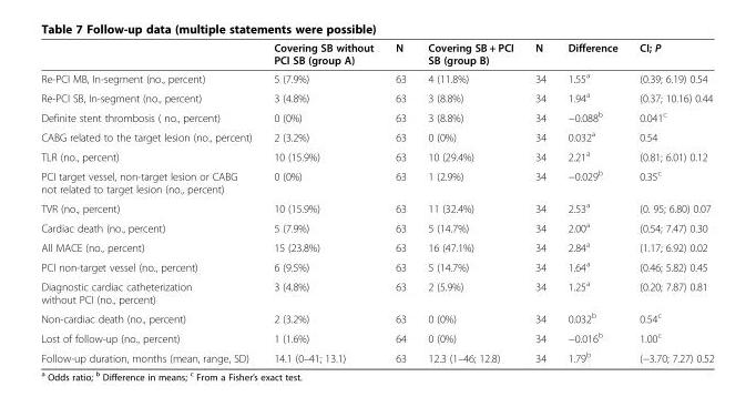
<table><thead><tr><td></td><td>Covering SB without PCI SB (group A)</td><td>N</td><td>Covering SB + PCI SB (group B)</td><td>N</td><td>Difference</td><td>CI; P</td></tr></thead><tbody><tr><td>Re-PCI MB, In-segment (no., percent)</td><td>5 (7.9%)</td><td>63</td><td>4 (11.8%)</td><td>34</td><td>1.55<sup>a</sup></td><td>(0.39; 6.19) 0.54</td></tr><tr><td>Re-PCI SB, In-segment (no., percent)</td><td>3 (4.8%)</td><td>63</td><td>3 (8.8%)</td><td>34</td><td>1.94<sup>a</sup></td><td>(0.37; 10.16) 0.44</td></tr><tr><td>Definite stent thrombosis ( no., percent)</td><td>0 (0%)</td><td>63</td><td>3 (8.8%)</td><td>34</td><td>−0.088<sup>b</sup></td><td>0.041<sup>c</sup></td></tr><tr><td>CABG related to the target lesion (no., percent)</td><td>2 (3.2%)</td><td>63</td><td>0 (0%)</td><td>34</td><td>0.032<sup>a</sup></td><td>0.54</td></tr><tr><td>TLR (no., percent)</td><td>10 (15.9%)</td><td>63</td><td>10 (29.4%)</td><td>34</td><td>2.21<sup>a</sup></td><td>(0.81; 6.01) 0.12</td></tr><tr><td>PCI target vessel, non-target lesion or CABG not related to target lesion (no., percent)</td><td>0 (0%)</td><td>63</td><td>1 (2.9%)</td><td>34</td><td>−0.029<sup>b</sup></td><td>0.35<sup>c</sup></td></tr><tr><td>TVR (no., percent)</td><td>10 (15.9%)</td><td>63</td><td>11 (32.4%)</td><td>34</td><td>2.53<sup>a</sup></td><td>(0. 95; 6.80) 0.07</td></tr><tr><td>Cardiac death (no., percent)</td><td>5 (7.9%)</td><td>63</td><td>5 (14.7%)</td><td>34</td><td>2.00<sup>a</sup></td><td>(0.54; 7.47) 0.30</td></tr><tr><td>All MACE (no., percent)</td><td>15 (23.8%)</td><td>63</td><td>16 (47.1%)</td><td>34</td><td>2.84<sup>a</sup></td><td>(1.17; 6.92) 0.02</td></tr><tr><td>PCI non-target vessel (no., percent)</td><td>6 (9.5%)</td><td>63</td><td>5 (14.7%)</td><td>34</td><td>1.64<sup>a</sup></td><td>(0.46; 5.82) 0.45</td></tr><tr><td>Diagnostic cardiac catheterization without PCI (no., percent)</td><td>3 (4.8%)</td><td>63</td><td>2 (5.9%)</td><td>34</td><td>1.25<sup>a</sup></td><td>(0.20; 7.87) 0.81</td></tr><tr><td>Non-cardiac death (no., percent)</td><td>2 (3.2%)</td><td>63</td><td>0 (0%)</td><td>34</td><td>0.032<sup>b</sup></td><td>0.54<sup>c</sup></td></tr><tr><td>Lost of follow-up (no., percent)</td><td>1 (1.6%)</td><td>64</td><td>0 (0%)</td><td>34</td><td>−0.016<sup>b</sup></td><td>1.00<sup>c</sup></td></tr><tr><td>Follow-up duration, months (mean, range, SD)</td><td>14.1 (0–41; 13.1)</td><td>63</td><td>12.3 (1–46; 12.8)</td><td>34</td><td>1.79<sup>b</sup></td><td>(−3.70; 7.27) 0.52</td></tr></tbody></table>